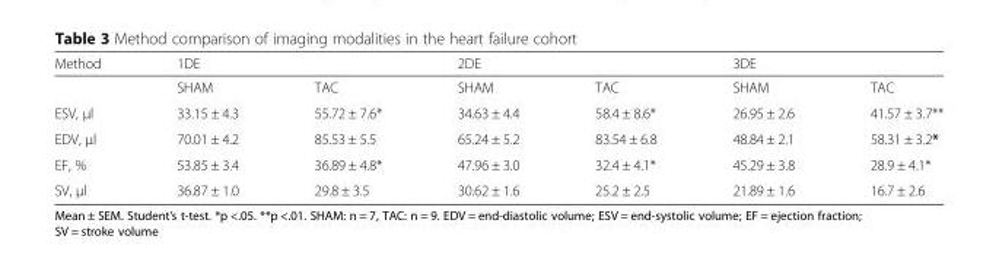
<table><thead><tr><td rowspan="2">Method</td><td colspan="2">1DE</td><td colspan="2">2DE</td><td colspan="2">3DE</td></tr><tr><td>SHAM</td><td>TAC</td><td>SHAM</td><td>TAC</td><td>SHAM</td><td>TAC</td></tr></thead><tbody><tr><td>ESV, μl</td><td>33.15 ± 4.3</td><td>55.72 ± 7.6*</td><td>34.63 ± 4.4</td><td>58.4 ± 8.6*</td><td>26.95 ± 2.6</td><td>41.57 ± 3.7**</td></tr><tr><td>EDV, μl</td><td>70.01 ± 4.2</td><td>85.53 ± 5.5</td><td>65.24 ± 5.2</td><td>83.54 ± 6.8</td><td>48.84 ± 2.1</td><td>58.31 ± 3.2*</td></tr><tr><td>EF, %</td><td>53.85 ± 3.4</td><td>36.89 ± 4.8*</td><td>47.96 ± 3.0</td><td>32.4 ± 4.1*</td><td>45.29 ± 3.8</td><td>28.9 ± 4.1*</td></tr><tr><td>SV, μl</td><td>36.87 ± 1.0</td><td>29.8 ± 3.5</td><td>30.62 ± 1.6</td><td>25.2 ± 2.5</td><td>21.89 ± 1.6</td><td>16.7 ± 2.6</td></tr></tbody></table>